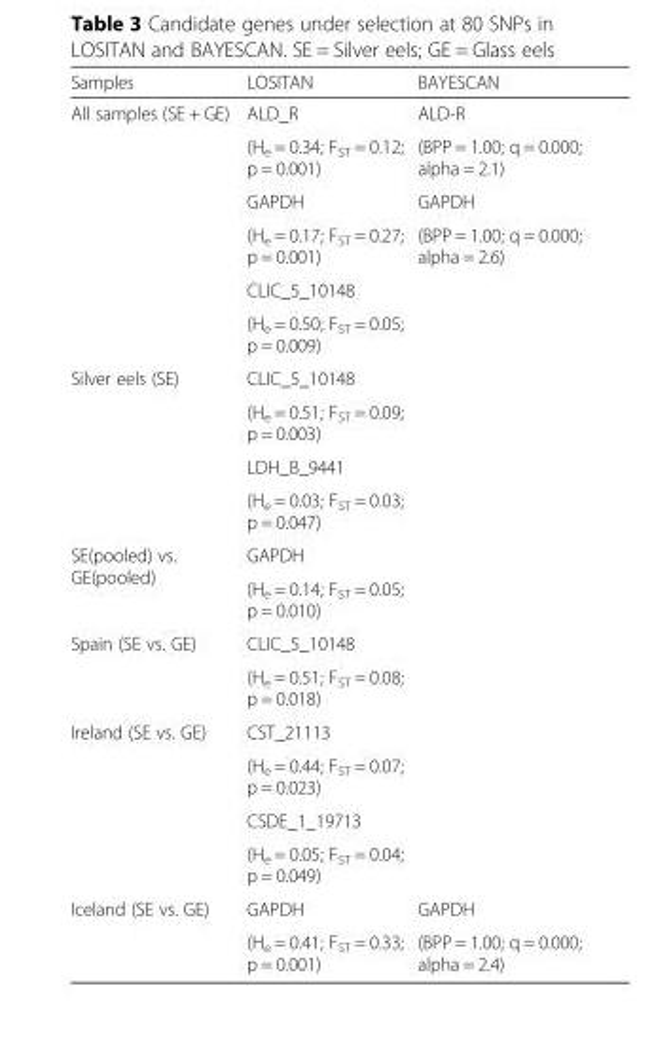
<table><thead><tr><td>Samples</td><td>LOSITAN</td><td>BAYESCAN</td></tr></thead><tbody><tr><td rowspan="6">All samples (SE + GE)</td><td>ALD_R</td><td>ALD-R</td></tr><tr><td>(H<sub>e</sub> = 0.34; F<sub>ST</sub> = 0.12; p = 0.001)</td><td>(BPP = 1.00; q = 0.000; alpha = 2.1)</td></tr><tr><td>GAPDH</td><td>GAPDH</td></tr><tr><td>(H<sub>e</sub> = 0.17; F<sub>ST</sub> = 0.27; p = 0.001)</td><td rowspan="3">(BPP = 1.00; q = 0.000; alpha = 2.6)</td></tr><tr><td>CLIC_5_10148</td></tr><tr><td>(H<sub>e</sub> = 0.50; F<sub>ST</sub> = 0.05; p = 0.009)</td></tr><tr><td rowspan="4">Silver eels (SE)</td><td>CLIC_5_10148</td><td rowspan="4"></td></tr><tr><td>(H<sub>e</sub> = 0.51; F<sub>ST</sub> = 0.09; p = 0.003)</td></tr><tr><td>LDH_B_9441</td></tr><tr><td>(H<sub>e</sub> = 0.03; F<sub>ST</sub> = 0.03; p = 0.047)</td></tr><tr><td rowspan="2">SE(pooled) vs. GE(pooled)</td><td>GAPDH</td><td rowspan="2"></td></tr><tr><td>(H<sub>e</sub> = 0.14; F<sub>ST</sub> = 0.05; p = 0.010)</td></tr><tr><td rowspan="2">Spain (SE vs. GE)</td><td>CLIC_5_10148</td><td rowspan="2"></td></tr><tr><td>(H<sub>e</sub> = 0.51; F<sub>ST</sub> = 0.08; p = 0.018)</td></tr><tr><td rowspan="4">Ireland (SE vs. GE)</td><td>CST_21113</td><td rowspan="4"></td></tr><tr><td>(H<sub>e</sub> = 0.44; F<sub>ST</sub> = 0.07; p = 0.023)</td></tr><tr><td>CSDE_1_19713</td></tr><tr><td>(H<sub>e</sub> = 0.05; F<sub>ST</sub> = 0.04; p = 0.049)</td></tr><tr><td rowspan="2">Iceland (SE vs. GE)</td><td>GAPDH</td><td>GAPDH</td></tr><tr><td>(H<sub>e</sub> = 0.41; F<sub>ST</sub> = 0.33; p = 0.001)</td><td>(BPP = 1.00; q = 0.000; alpha = 2.4)</td></tr></tbody></table>